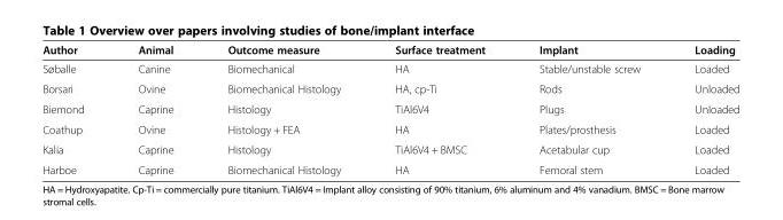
<table><thead><tr><td>Author</td><td>Animal</td><td>Outcome measure</td><td>Surface treatment</td><td>Implant</td><td>Loading</td></tr></thead><tbody><tr><td>Søballe</td><td>Canine</td><td>Biomechanical</td><td>HA</td><td>Stable/unstable screw</td><td>Loaded</td></tr><tr><td>Borsari</td><td>Ovine</td><td>Biomechanical Histology</td><td>HA, cp-Ti</td><td>Rods</td><td>Unloaded</td></tr><tr><td>Biemond</td><td>Caprine</td><td>Histology</td><td>TiAl6V4</td><td>Plugs</td><td>Unloaded</td></tr><tr><td>Coathup</td><td>Ovine</td><td>Histology + FEA</td><td>HA</td><td>Plates/prosthesis</td><td>Loaded</td></tr><tr><td>Kalia</td><td>Caprine</td><td>Histology</td><td>TiAl6V4 + BMSC</td><td>Acetabular cup</td><td>Loaded</td></tr><tr><td>Harboe</td><td>Caprine</td><td>Biomechanical Histology</td><td>HA</td><td>Femoral stem</td><td>Loaded</td></tr></tbody></table>